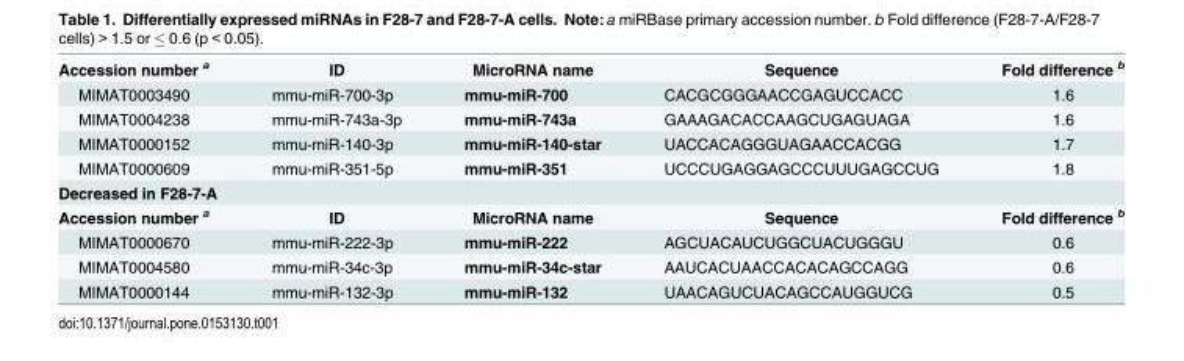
<table><tbody><tr><td>Accession number <sup>a</sup></td><td>ID</td><td>MicroRNA name</td><td>Sequence</td><td>Fold difference <sup>b</sup></td></tr><tr><td>MIMAT0003490</td><td>mmu-miR-700-3p</td><td>mmu-miR-700</td><td>CACGCGGGAACCGAGUCCACC</td><td>1.6</td></tr><tr><td>MIMAT0004238</td><td>mmu-miR-743a-3p</td><td>mmu-miR-743a</td><td>GAAAGACACCAAGCUGAGUAGA</td><td>1.6</td></tr><tr><td>MIMAT0000152</td><td>mmu-miR-140-3p</td><td>mmu-miR-140-star</td><td>UACCACAGGGUAGAACCACGG</td><td>1.7</td></tr><tr><td>MIMAT0000609</td><td>mmu-miR-351-5p</td><td>mmu-miR-351</td><td>UCCCUGAGGAGCCCUUUGAGCCUG</td><td>1.8</td></tr><tr><td colspan="5">Decreased in F28-7-A</td></tr><tr><td>Accession number <sup>a</sup></td><td>ID</td><td>MicroRNA name</td><td>Sequence</td><td>Fold difference <sup>b</sup></td></tr><tr><td>MIMAT0000670</td><td>mmu-miR-222-3p</td><td>mmu-miR-222</td><td>AGCUACAUCUGGCUACUGGGU</td><td>0.6</td></tr><tr><td>MIMAT0004580</td><td>mmu-miR-34c-3p</td><td>mmu-miR-34c-star</td><td>AAUCACUAACCACACAGCCAGG</td><td>0.6</td></tr><tr><td>MIMAT0000144</td><td>mmu-miR-132-3p</td><td>mmu-miR-132</td><td>UAACAGUCUACAGCCAUGGUCG</td><td>0.5</td></tr></tbody></table>